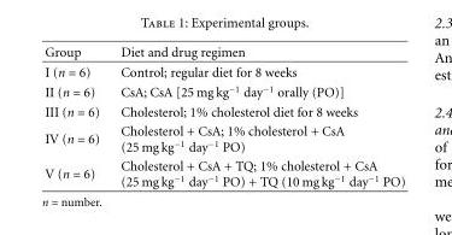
<table><thead><tr><td>Group</td><td>Diet and drug regimen</td></tr></thead><tbody><tr><td>I (n = 6)</td><td>Control; regular diet for 8 weeks</td></tr><tr><td>II (n = 6)</td><td>CsA; CsA [25 mg kg<sup>−1</sup> day<sup>−1</sup> orally (PO)]</td></tr><tr><td>III (n = 6)</td><td>Cholesterol; 1% cholesterol diet for 8 weeks</td></tr><tr><td>IV (n = 6)</td><td>Cholesterol + CsA; 1% cholesterol + CsA (25 mg kg<sup>−1</sup> day<sup>−1</sup> PO)</td></tr><tr><td>V (n = 6)</td><td>Cholesterol + CsA + TQ; 1% cholesterol + CsA (25 mg kg<sup>−1</sup> day<sup>−1</sup> PO) + TQ (10 mg kg<sup>−1</sup> day<sup>−1</sup> PO)</td></tr></tbody></table>